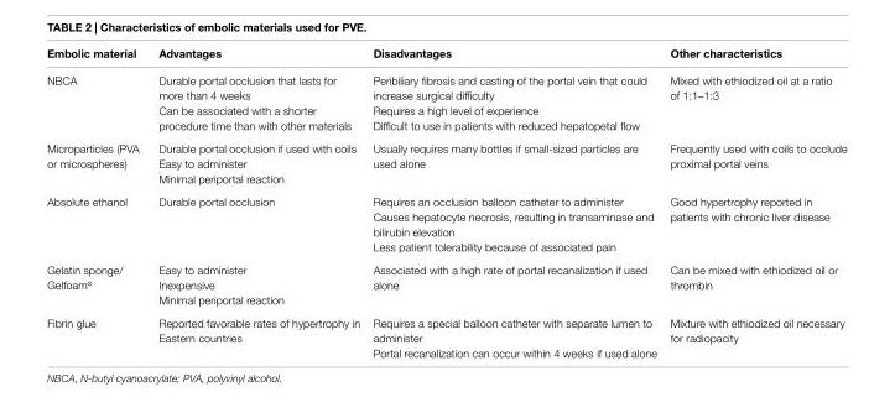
<table><thead><tr><td>embolic material</td><td>Advantages</td><td>Disadvantages</td><td>Other characteristics</td></tr></thead><tbody><tr><td rowspan="3">NBCA</td><td>Durable portal occlusion that lasts for more than 4 weeks</td><td>Peribiliary fibrosis and casting of the portal vein that could increase surgical difficulty</td><td rowspan="3">Mixed with ethiodized oil at a ratio of 1:1–1:3</td></tr><tr><td rowspan="2">Can be associated with a shorter procedure time than with other materials</td><td>Requires a high level of experience</td></tr><tr><td>Difficult to use in patients with reduced hepatopetal flow</td></tr><tr><td rowspan="3">Microparticles (PVA or microspheres)</td><td>Durable portal occlusion if used with coils</td><td rowspan="3">Usually requires many bottles if small-sized particles are used alone</td><td rowspan="3">Frequently used with coils to occlude proximal portal veins</td></tr><tr><td>Easy to administer</td></tr><tr><td>Minimal periportal reaction</td></tr><tr><td rowspan="3">Absolute ethanol</td><td rowspan="3">Durable portal occlusion</td><td>Requires an occlusion balloon catheter to administer</td><td rowspan="3">Good hypertrophy reported in patients with chronic liver disease</td></tr><tr><td>Causes hepatocyte necrosis, resulting in transaminase and bilirubin elevation</td></tr><tr><td>Less patient tolerability because of associated pain</td></tr><tr><td rowspan="3">Gelatin sponge/ Gelfoam<sup>®</sup></td><td>Easy to administer</td><td rowspan="3">Associated with a high rate of portal recanalization if used alone</td><td rowspan="3">Can be mixed with ethiodized oil or thrombin</td></tr><tr><td>Inexpensive</td></tr><tr><td>Minimal periportal reaction</td></tr><tr><td rowspan="2">Fibrin glue</td><td rowspan="2">Reported favorable rates of hypertrophy in Eastern countries</td><td>Requires a special balloon catheter with separate lumen to administer</td><td rowspan="2">Mixture with ethiodized oil necessary for radiopacity</td></tr><tr><td>Portal recanalization can occur within 4 weeks if used alone</td></tr></tbody></table>